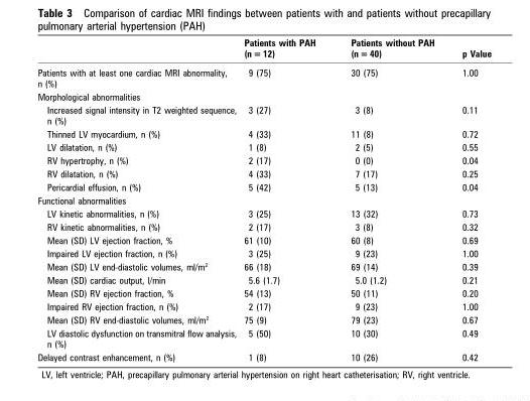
<table><thead><tr><td></td><td>Patients with PAH (n = 12)</td><td>Patients without PAH (n = 40)</td><td>p Value</td></tr></thead><tbody><tr><td>Patients with at least one cardiac MRI abnormality, n (%)</td><td>9 (75)</td><td>30 (75)</td><td>1.00</td></tr><tr><td colspan="4">Morphological abnormalities</td></tr><tr><td>Increased signal intensity in T2 weighted sequence, n (%)</td><td>3 (27)</td><td>3 (8)</td><td>0.11</td></tr><tr><td>Thinned LV myocardium, n (%)</td><td>4 (33)</td><td>11 (8)</td><td>0.72</td></tr><tr><td>LV dilatation, n (%)</td><td>1 (8)</td><td>2 (5)</td><td>0.55</td></tr><tr><td>RV hypertrophy, n (%)</td><td>2 (17)</td><td>0 (0)</td><td>0.04</td></tr><tr><td>RV dilatation, n (%)</td><td>4 (33)</td><td>7 (17)</td><td>0.25</td></tr><tr><td>Pericardial effusion, n (%)</td><td>5 (42)</td><td>5 (13)</td><td>0.04</td></tr><tr><td colspan="4">Functional abnormalities</td></tr><tr><td>LV kinetic abnormalities, n (%)</td><td>3 (25)</td><td>13 (32)</td><td>0.73</td></tr><tr><td>RV kinetic abnormalities, n (%)</td><td>2 (17)</td><td>3 (8)</td><td>0.32</td></tr><tr><td>Mean (SD) LV ejection fraction, %</td><td>61 (10)</td><td>60 (8)</td><td>0.69</td></tr><tr><td>Impaired LV ejection fraction, n (%)</td><td>3 (25)</td><td>9 (23)</td><td>1.00</td></tr><tr><td>Mean (SD) LV end-diastolic volumes, ml/m<sup>2</sup></td><td>66 (18)</td><td>69 (14)</td><td>0.39</td></tr><tr><td>Mean (SD) cardiac output, l/min</td><td>5.6 (1.7)</td><td>5.0 (1.2)</td><td>0.21</td></tr><tr><td>Mean (SD) RV ejection fraction, %</td><td>54 (13)</td><td>50 (11)</td><td>0.20</td></tr><tr><td>Impaired RV ejection fraction, n (%)</td><td>2 (17)</td><td>9 (23)</td><td>1.00</td></tr><tr><td>Mean (SD) RV end-diastolic volumes, ml/m<sup>2</sup></td><td>75 (9)</td><td>79 (23)</td><td>0.67</td></tr><tr><td>LV diastolic dysfunction on transmitral flow analysis, n (%)</td><td>5 (50)</td><td>10 (30)</td><td>0.49</td></tr><tr><td>Delayed contrast enhancement, n (%)</td><td>1 (8)</td><td>10 (26)</td><td>0.42</td></tr></tbody></table>